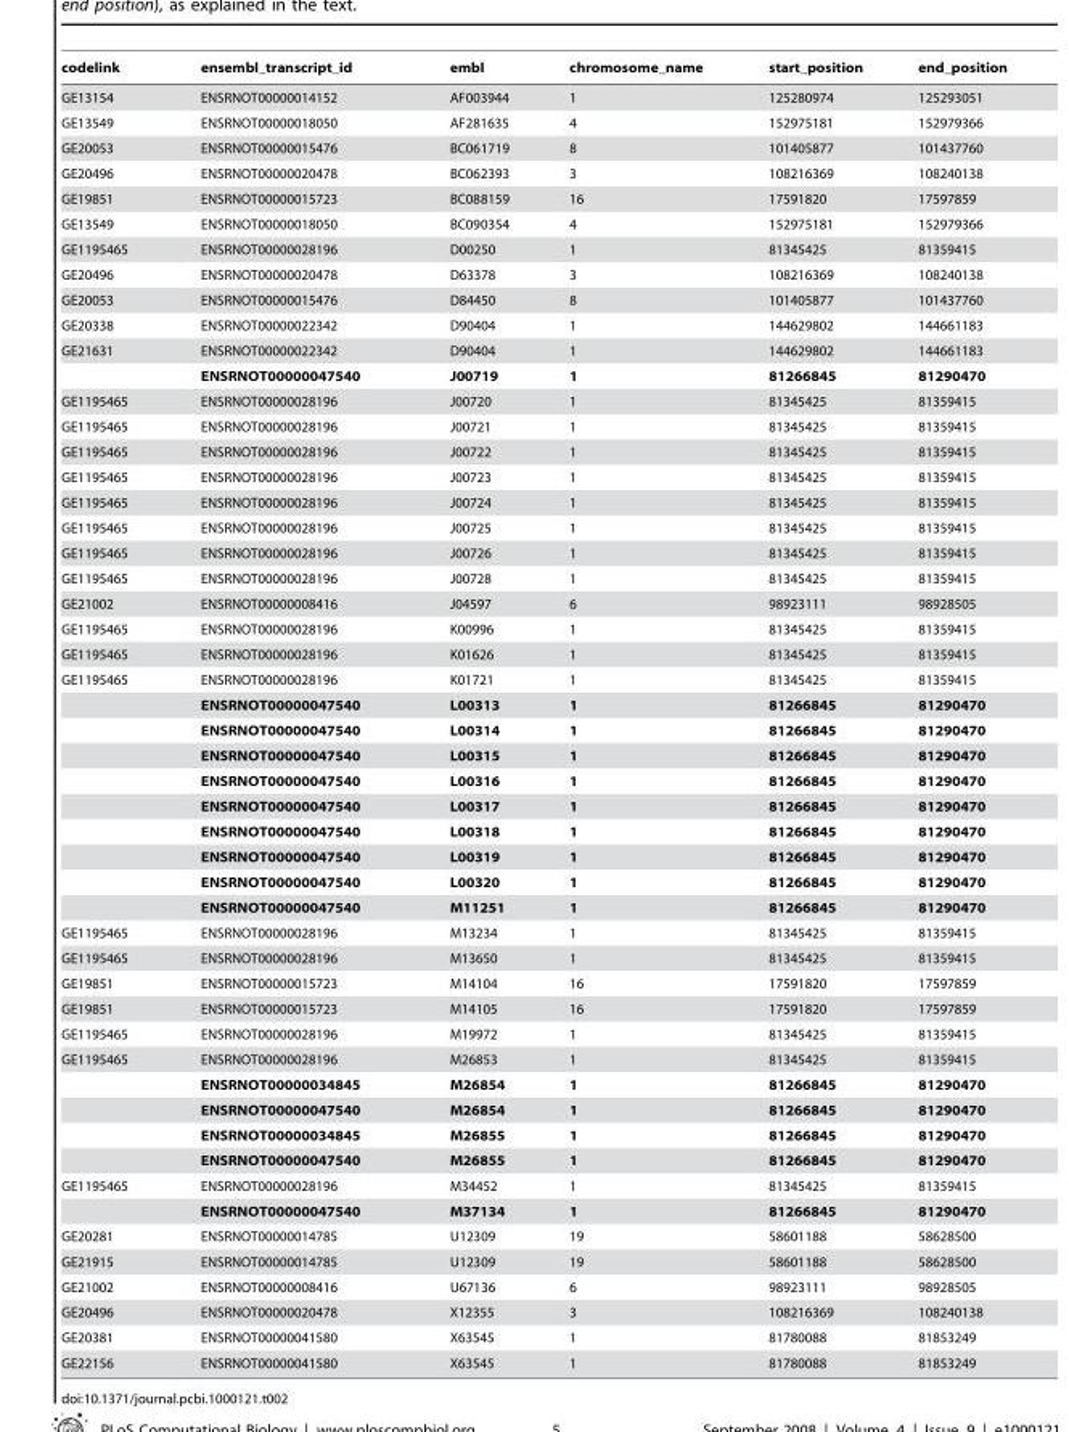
<table><thead><tr><td>codelink</td><td>ensembl_transcript_id</td><td>embl</td><td>chromosome_name</td><td>start_position</td><td>end_position</td></tr></thead><tbody><tr><td>GE13154</td><td>ENSRNOT00000014152</td><td>AF003944</td><td>1</td><td>125280974</td><td>125293051</td></tr><tr><td>GE13549</td><td>ENSRNOT00000018050</td><td>AF281635</td><td>4</td><td>152975181</td><td>152979366</td></tr><tr><td>GE20053</td><td>ENSRNOT00000015476</td><td>BC061719</td><td>8</td><td>101405877</td><td>101437760</td></tr><tr><td>GE20496</td><td>ENSRNOT00000020478</td><td>BC062393</td><td>3</td><td>108216369</td><td>108240138</td></tr><tr><td>GE19851</td><td>ENSRNOT00000015723</td><td>BC088159</td><td>16</td><td>17591820</td><td>17597859</td></tr><tr><td>GE13549</td><td>ENSRNOT00000018050</td><td>BC090354</td><td>4</td><td>152975181</td><td>152979366</td></tr><tr><td>GE1195465</td><td>ENSRNOT00000028196</td><td>D00250</td><td>1</td><td>81345425</td><td>81359415</td></tr><tr><td>GE20496</td><td>ENSRNOT00000020478</td><td>D63378</td><td>3</td><td>108216369</td><td>108240138</td></tr><tr><td>GE20053</td><td>ENSRNOT00000015476</td><td>D84450</td><td>8</td><td>101405877</td><td>101437760</td></tr><tr><td>GE20338</td><td>ENSRNOT00000022342</td><td>D90404</td><td>1</td><td>144629802</td><td>144661183</td></tr><tr><td rowspan="2">GE21631</td><td>ENSRNOT00000022342</td><td>D90404</td><td>1</td><td>144629802</td><td>144661183</td></tr><tr><td>ENSRNOT00000047540</td><td>J00719</td><td>1</td><td>81266845</td><td>81290470</td></tr><tr><td>GE1195465</td><td>ENSRNOT00000028196</td><td>J00720</td><td>1</td><td>81345425</td><td>81359415</td></tr><tr><td>GE1195465</td><td>ENSRNOT00000028196</td><td>J00721</td><td>1</td><td>81345425</td><td>81359415</td></tr><tr><td>GE1195465</td><td>ENSRNOT00000028196</td><td>J00722</td><td>1</td><td>81345425</td><td>81359415</td></tr><tr><td>GE1195465</td><td>ENSRNOT00000028196</td><td>J00723</td><td>1</td><td>81345425</td><td>81359415</td></tr><tr><td>GE1195465</td><td>ENSRNOT00000028196</td><td>J00724</td><td>1</td><td>81345425</td><td>81359415</td></tr><tr><td>GE1195465</td><td>ENSRNOT00000028196</td><td>J00725</td><td>1</td><td>81345425</td><td>81359415</td></tr><tr><td>GE1195465</td><td>ENSRNOT00000028196</td><td>J00726</td><td>1</td><td>81345425</td><td>81359415</td></tr><tr><td>GE1195465</td><td>ENSRNOT00000028196</td><td>J00728</td><td>1</td><td>81345425</td><td>81359415</td></tr><tr><td>GE21002</td><td>ENSRNOT00000008416</td><td>J04597</td><td>6</td><td>98923111</td><td>98928505</td></tr><tr><td>GE1195465</td><td>ENSRNOT00000028196</td><td>K00996</td><td>1</td><td>81345425</td><td>81359415</td></tr><tr><td>GE1195465</td><td>ENSRNOT00000028196</td><td>K01626</td><td>1</td><td>81345425</td><td>81359415</td></tr><tr><td rowspan="10">GE1195465</td><td>ENSRNOT00000028196</td><td>K01721</td><td>1</td><td>81345425</td><td>81359415</td></tr><tr><td>ENSRNOT00000047540</td><td>L00313</td><td>1</td><td>81266845</td><td>81290470</td></tr><tr><td>ENSRNOT00000047540</td><td>L00314</td><td>1</td><td>81266845</td><td>81290470</td></tr><tr><td>ENSRNOT00000047540</td><td>L00315</td><td>1</td><td>81266845</td><td>81290470</td></tr><tr><td>ENSRNOT00000047540</td><td>L00316</td><td>1</td><td>81266845</td><td>81290470</td></tr><tr><td>ENSRNOT00000047540</td><td>L00317</td><td>1</td><td>81266845</td><td>81290470</td></tr><tr><td>ENSRNOT00000047540</td><td>L00318</td><td>1</td><td>81266845</td><td>81290470</td></tr><tr><td>ENSRNOT00000047540</td><td>L00319</td><td>1</td><td>81266845</td><td>81290470</td></tr><tr><td>ENSRNOT00000047540</td><td>L00320</td><td>1</td><td>81266845</td><td>81290470</td></tr><tr><td>ENSRNOT00000047540</td><td>M11251</td><td>1</td><td>81266845</td><td>81290470</td></tr><tr><td>GE1195465</td><td>ENSRNOT00000028196</td><td>M13234</td><td>1</td><td>81345425</td><td>81359415</td></tr><tr><td>GE1195465</td><td>ENSRNOT00000028196</td><td>M13650</td><td>1</td><td>81345425</td><td>81359415</td></tr><tr><td>GE19851</td><td>ENSRNOT00000015723</td><td>M14104</td><td>16</td><td>17591820</td><td>17597859</td></tr><tr><td>GE19851</td><td>ENSRNOT00000015723</td><td>M14105</td><td>16</td><td>17591820</td><td>17597859</td></tr><tr><td>GE1195465</td><td>ENSRNOT00000028196</td><td>M19972</td><td>1</td><td>81345425</td><td>81359415</td></tr><tr><td rowspan="5">GE1195465</td><td>ENSRNOT00000028196</td><td>M26853</td><td>1</td><td>81345425</td><td>81359415</td></tr><tr><td>ENSRNOT00000034845</td><td>M26854</td><td>1</td><td>81266845</td><td>81290470</td></tr><tr><td>ENSRNOT00000047540</td><td>M26854</td><td>1</td><td>81266845</td><td>81290470</td></tr><tr><td>ENSRNOT00000034845</td><td>M26855</td><td>1</td><td>81266845</td><td>81290470</td></tr><tr><td>ENSRNOT00000047540</td><td>M26855</td><td>1</td><td>81266845</td><td>81290470</td></tr><tr><td rowspan="2">GE1195465</td><td>ENSRNOT00000028196</td><td>M34452</td><td>1</td><td>81345425</td><td>81359415</td></tr><tr><td>ENSRNOT00000047540</td><td>M37134</td><td>1</td><td>81266845</td><td>81290470</td></tr><tr><td>GE20281</td><td>ENSRNOT00000014785</td><td>U12309</td><td>19</td><td>58601188</td><td>58628500</td></tr><tr><td>GE21915</td><td>ENSRNOT00000014785</td><td>U12309</td><td>19</td><td>58601188</td><td>58628500</td></tr><tr><td>GE21002</td><td>ENSRNOT00000008416</td><td>U67136</td><td>6</td><td>98923111</td><td>98928505</td></tr><tr><td>GE20496</td><td>ENSRNOT00000020478</td><td>X12355</td><td>3</td><td>108216369</td><td>108240138</td></tr><tr><td>GE20381</td><td>ENSRNOT00000041580</td><td>X63545</td><td>1</td><td>81780088</td><td>81853249</td></tr><tr><td>GE22156</td><td>ENSRNOT00000041580</td><td>X63545</td><td>1</td><td>81780088</td><td>81853249</td></tr></tbody></table>